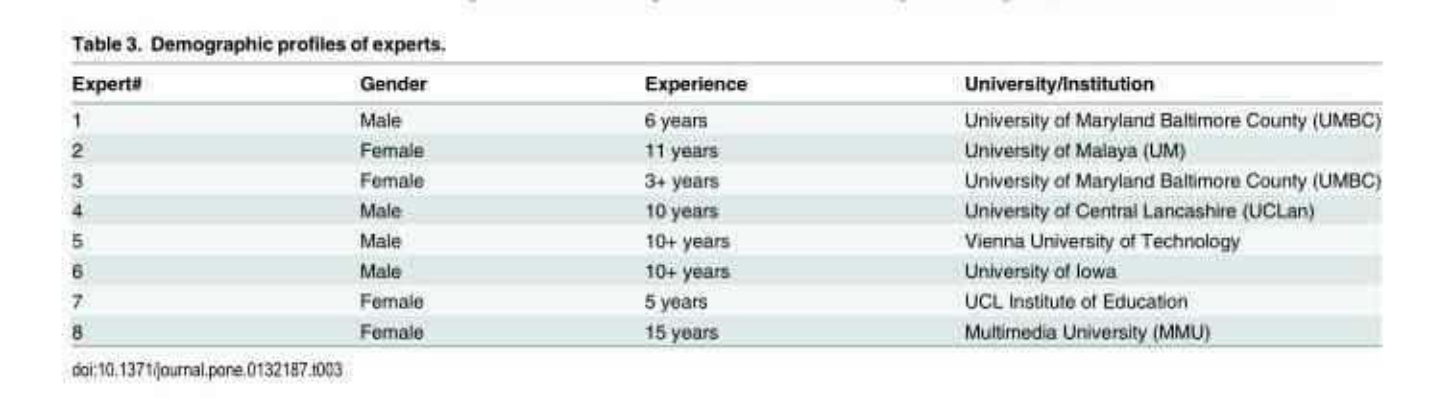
<table><thead><tr><td>Expert#</td><td>Gender</td><td>Experience</td><td>University/Institution</td></tr></thead><tbody><tr><td>1</td><td>Male</td><td>6 years</td><td>University of Maryland Baltimore County (UMBC)</td></tr><tr><td>2</td><td>Female</td><td>11 years</td><td>University of Malaya (UM)</td></tr><tr><td>3</td><td>Female</td><td>3+ years</td><td>University of Maryland Baltimore County (UMBC)</td></tr><tr><td>4</td><td>Male</td><td>10 years</td><td>University of Central Lancashire (UCLan)</td></tr><tr><td>5</td><td>Male</td><td>10+ years</td><td>Vienna University of Technology</td></tr><tr><td>6</td><td>Male</td><td>10+ years</td><td>University of Iowa</td></tr><tr><td>7</td><td>Female</td><td>5 years</td><td>UCL Institute of Education</td></tr><tr><td>8</td><td>Female</td><td>15 years</td><td>Multimedia University (MMU)</td></tr></tbody></table>